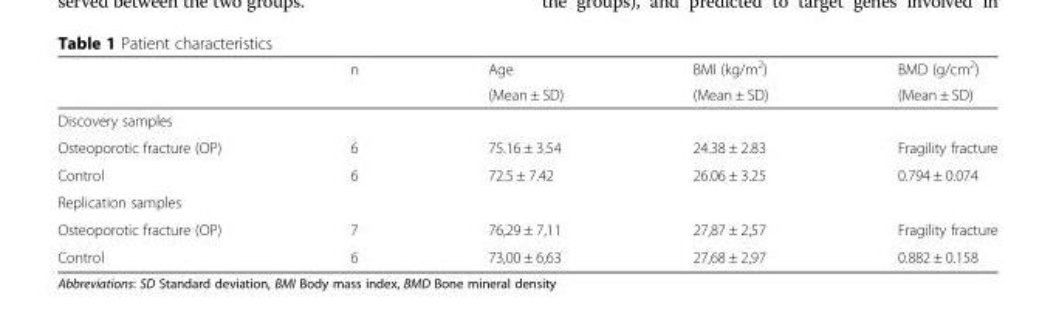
<table><thead><tr><td rowspan="2"></td><td rowspan="2">n</td><td rowspan="2">Age (Mean ± SD)</td><td rowspan="2">BMI (kg/m<sup>2</sup>) (Mean ± SD)</td><td rowspan="2">BMD (g/cm<sup>2</sup>) (Mean ± SD)</td></tr><tr></tr></thead><tbody><tr><td colspan="5">Discovery samples</td></tr><tr><td>Osteoporotic fracture (OP)</td><td>6</td><td>75.16 ± 3.54</td><td>24.38 ± 2.83</td><td>Fragility fracture</td></tr><tr><td>Control</td><td>6</td><td>72.5 ± 7.42</td><td>26.06 ± 3.25</td><td>0.794 ± 0.074</td></tr><tr><td colspan="5">Replication samples</td></tr><tr><td>Osteoporotic fracture (OP)</td><td>7</td><td>76,29 ± 7,11</td><td>27,87 ± 2,57</td><td>Fragility fracture</td></tr><tr><td>Control</td><td>6</td><td>73,00 ± 6,63</td><td>27,68 ± 2,97</td><td>0.882 ± 0.158</td></tr></tbody></table>